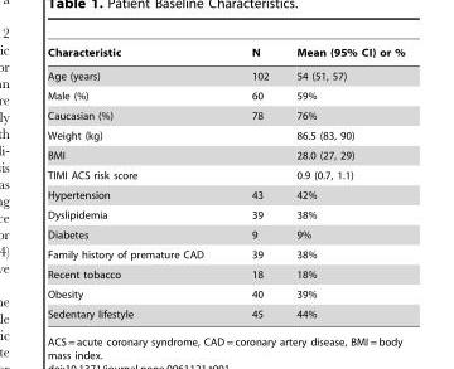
<table><thead><tr><td>Characteristic</td><td>N</td><td>Mean (95% CI) or %</td></tr></thead><tbody><tr><td>Age (years)</td><td>102</td><td>54 (51, 57)</td></tr><tr><td>Male (%)</td><td>60</td><td>59%</td></tr><tr><td>Caucasian (%)</td><td>78</td><td>76%</td></tr><tr><td>Weight (kg)</td><td></td><td>86.5 (83, 90)</td></tr><tr><td>BMI</td><td></td><td>28.0 (27, 29)</td></tr><tr><td>TIMI ACS risk score</td><td></td><td>0.9 (0.7, 1.1)</td></tr><tr><td>Hypertension</td><td>43</td><td>42%</td></tr><tr><td>Dyslipidemia</td><td>39</td><td>38%</td></tr><tr><td>Diabetes</td><td>9</td><td>9%</td></tr><tr><td>Family history of premature CAD</td><td>39</td><td>38%</td></tr><tr><td>Recent tobacco</td><td>18</td><td>18%</td></tr><tr><td>Obesity</td><td>40</td><td>39%</td></tr><tr><td>Sedentary lifestyle</td><td>45</td><td>44%</td></tr></tbody></table>